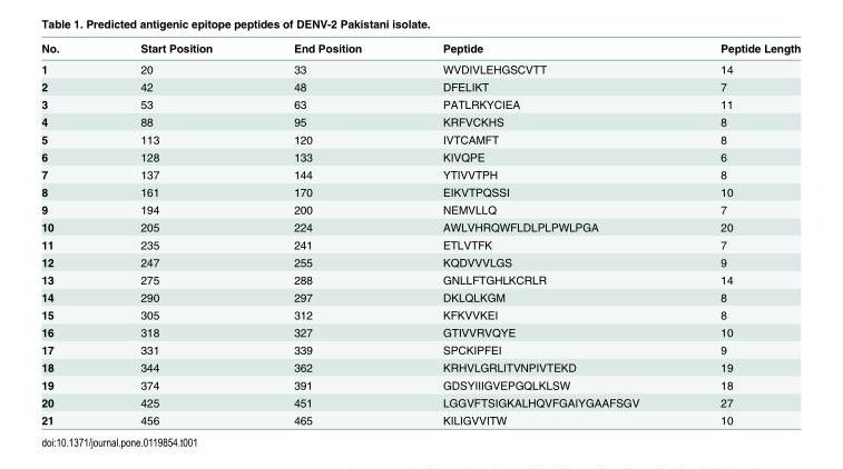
<table><thead><tr><td>No.</td><td>Start Position</td><td>End Position</td><td>Peptide</td><td>Peptide Length</td></tr></thead><tbody><tr><td>1</td><td>20</td><td>33</td><td>WVDIVLEHGSCVTT</td><td>14</td></tr><tr><td>2</td><td>42</td><td>48</td><td>DFELIKT</td><td>7</td></tr><tr><td>3</td><td>53</td><td>63</td><td>PATLRKYCIEA</td><td>11</td></tr><tr><td>4</td><td>88</td><td>95</td><td>KRFVCKHS</td><td>8</td></tr><tr><td>5</td><td>113</td><td>120</td><td>IVTCAMFT</td><td>8</td></tr><tr><td>6</td><td>128</td><td>133</td><td>KIVQPE</td><td>6</td></tr><tr><td>7</td><td>137</td><td>144</td><td>YTIVVTPH</td><td>8</td></tr><tr><td>8</td><td>161</td><td>170</td><td>EIKVTPQSSI</td><td>10</td></tr><tr><td>9</td><td>194</td><td>200</td><td>NEMVLLQ</td><td>7</td></tr><tr><td>10</td><td>205</td><td>224</td><td>AWLVHRQWFLDLPLPWLPGA</td><td>20</td></tr><tr><td>11</td><td>235</td><td>241</td><td>ETLVTFK</td><td>7</td></tr><tr><td>12</td><td>247</td><td>255</td><td>KQDVVVLGS</td><td>9</td></tr><tr><td>13</td><td>275</td><td>288</td><td>GNLLFTGHLKCRLR</td><td>14</td></tr><tr><td>14</td><td>290</td><td>297</td><td>DKLQLKGM</td><td>8</td></tr><tr><td>15</td><td>305</td><td>312</td><td>KFKVVKEI</td><td>8</td></tr><tr><td>16</td><td>318</td><td>327</td><td>GTIVVRVQYE</td><td>10</td></tr><tr><td>17</td><td>331</td><td>339</td><td>SPCKIPFEI</td><td>9</td></tr><tr><td>18</td><td>344</td><td>362</td><td>KRHVLGRLITVNPIVTEKD</td><td>19</td></tr><tr><td>19</td><td>374</td><td>391</td><td>GDSYIIIGVEPGQLKLSW</td><td>18</td></tr><tr><td>20</td><td>425</td><td>451</td><td>LGGVFTSIGKALHQVFGAIYGAAFSGV</td><td>27</td></tr><tr><td>21</td><td>456</td><td>465</td><td>KILIGVVITW</td><td>10</td></tr></tbody></table>